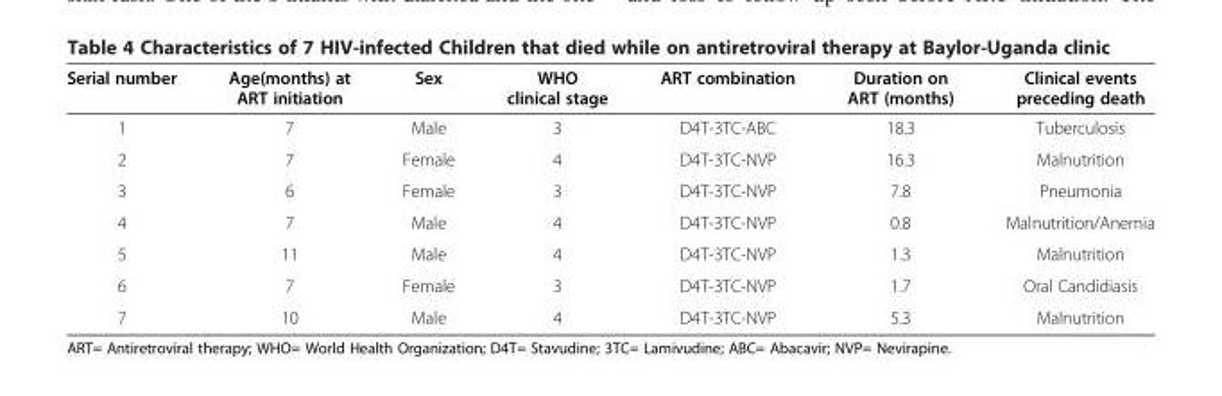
<table><thead><tr><td>Serial number</td><td>Age(months) at ART initiation</td><td>Sex</td><td>WHO clinical stage</td><td>ART combination</td><td>Duration on ART (months)</td><td>Clinical events preceding death</td></tr></thead><tbody><tr><td>1</td><td>7</td><td>Male</td><td>3</td><td>D4T-3TC-ABC</td><td>18.3</td><td>Tuberculosis</td></tr><tr><td>2</td><td>7</td><td>Female</td><td>4</td><td>D4T-3TC-NVP</td><td>16.3</td><td>Malnutrition</td></tr><tr><td>3</td><td>6</td><td>Female</td><td>3</td><td>D4T-3TC-NVP</td><td>7.8</td><td>Pneumonia</td></tr><tr><td>4</td><td>7</td><td>Male</td><td>4</td><td>D4T-3TC-NVP</td><td>0.8</td><td>Malnutrition/Anemia</td></tr><tr><td>5</td><td>11</td><td>Male</td><td>4</td><td>D4T-3TC-NVP</td><td>1.3</td><td>Malnutrition</td></tr><tr><td>6</td><td>7</td><td>Female</td><td>3</td><td>D4T-3TC-NVP</td><td>1.7</td><td>Oral Candidiasis</td></tr><tr><td>7</td><td>10</td><td>Male</td><td>4</td><td>D4T-3TC-NVP</td><td>5.3</td><td>Malnutrition</td></tr></tbody></table>